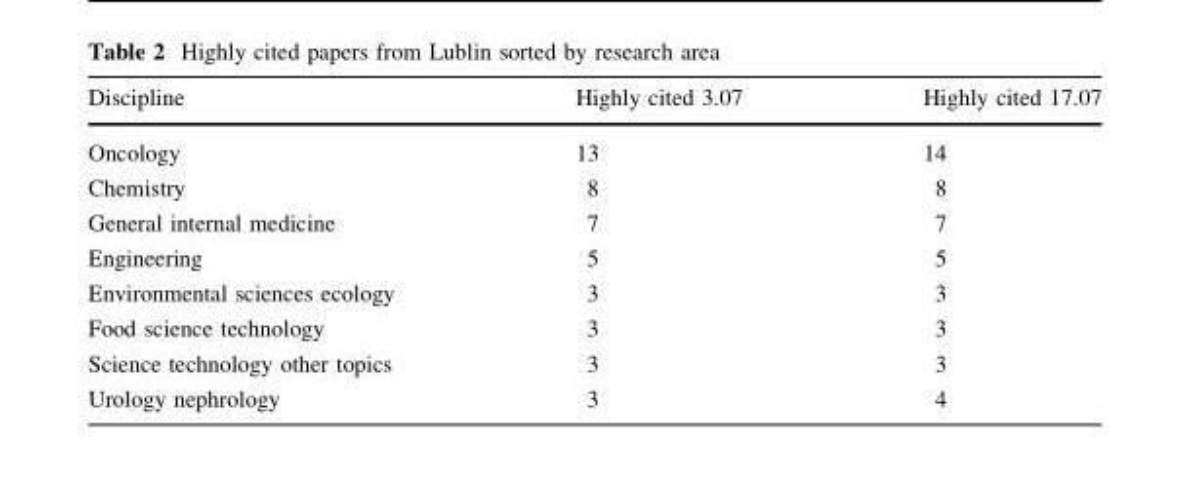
<table><thead><tr><td>Discipline</td><td>Highly cited 3.07</td><td>Highly cited 17.07</td></tr></thead><tbody><tr><td>Oncology</td><td>13</td><td>14</td></tr><tr><td>Chemistry</td><td>8</td><td>8</td></tr><tr><td>General internal medicine</td><td>7</td><td>7</td></tr><tr><td>Engineering</td><td>5</td><td>5</td></tr><tr><td>Environmental sciences ecology</td><td>3</td><td>3</td></tr><tr><td>Food science technology</td><td>3</td><td>3</td></tr><tr><td>Science technology other topics</td><td>3</td><td>3</td></tr><tr><td>Urology nephrology</td><td>3</td><td>4</td></tr></tbody></table>